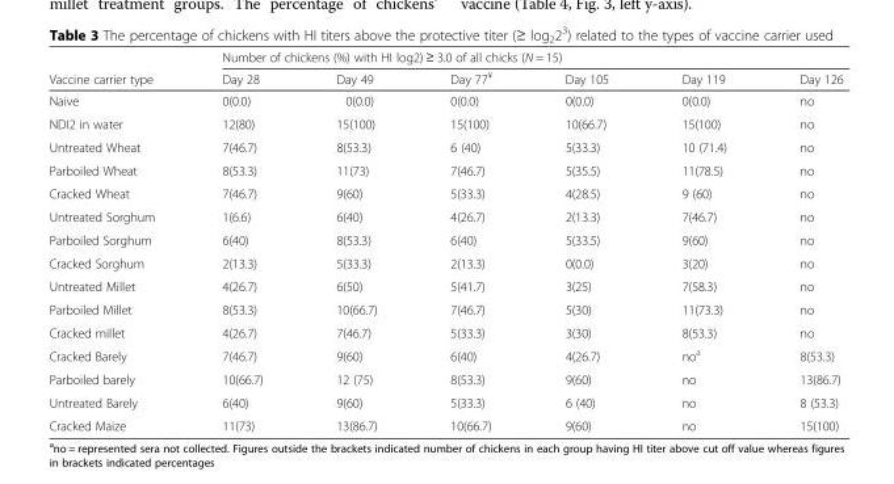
<table><thead><tr><td rowspan="2">Vaccine carrier type</td><td colspan="6">Number of chickens (%) with HI log2) ≥ 3.0 of all chicks (N = 15)</td></tr><tr><td>Day 28</td><td>Day 49</td><td>Day 77<sup>¥</sup></td><td>Day 105</td><td>Day 119</td><td>Day 126</td></tr></thead><tbody><tr><td>Naive</td><td>0(0.0)</td><td>0(0.0)</td><td>0(0.0)</td><td>0(0.0)</td><td>0(0.0)</td><td>no</td></tr><tr><td>NDI2 in water</td><td>12(80)</td><td>15(100)</td><td>15(100)</td><td>10(66.7)</td><td>15(100)</td><td>no</td></tr><tr><td>Untreated Wheat</td><td>7(46.7)</td><td>8(53.3)</td><td>6 (40)</td><td>5(33.3)</td><td>10 (71.4)</td><td>no</td></tr><tr><td>Parboiled Wheat</td><td>8(53.3)</td><td>11(73)</td><td>7(46.7)</td><td>5(35.5)</td><td>11(78.5)</td><td>no</td></tr><tr><td>Cracked Wheat</td><td>7(46.7)</td><td>9(60)</td><td>5(33.3)</td><td>4(28.5)</td><td>9 (60)</td><td>no</td></tr><tr><td>Untreated Sorghum</td><td>1(6.6)</td><td>6(40)</td><td>4(26.7)</td><td>2(13.3)</td><td>7(46.7)</td><td>no</td></tr><tr><td>Parboiled Sorghum</td><td>6(40)</td><td>8(53.3)</td><td>6(40)</td><td>5(33.5)</td><td>9(60)</td><td>no</td></tr><tr><td>Cracked Sorghum</td><td>2(13.3)</td><td>5(33.3)</td><td>2(13.3)</td><td>0(0.0)</td><td>3(20)</td><td>no</td></tr><tr><td>Untreated Millet</td><td>4(26.7)</td><td>6(50)</td><td>5(41.7)</td><td>3(25)</td><td>7(58.3)</td><td>no</td></tr><tr><td>Parboiled Millet</td><td>8(53.3)</td><td>10(66.7)</td><td>7(46.7)</td><td>5(30)</td><td>11(73.3)</td><td>no</td></tr><tr><td>Cracked millet</td><td>4(26.7)</td><td>7(46.7)</td><td>5(33.3)</td><td>3(30)</td><td>8(53.3)</td><td>no</td></tr><tr><td>Cracked Barely</td><td>7(46.7)</td><td>9(60)</td><td>6(40)</td><td>4(26.7)</td><td>no<sup>a</sup></td><td>8(53.3)</td></tr><tr><td>Parboiled barely</td><td>10(66.7)</td><td>12 (75)</td><td>8(53.3)</td><td>9(60)</td><td>no</td><td>13(86.7)</td></tr><tr><td>Untreated Barely</td><td>6(40)</td><td>9(60)</td><td>5(33.3)</td><td>6 (40)</td><td>no</td><td>8 (53.3)</td></tr><tr><td>Cracked Maize</td><td>11(73)</td><td>13(86.7)</td><td>10(66.7)</td><td>9(60)</td><td>no</td><td>15(100)</td></tr></tbody></table>